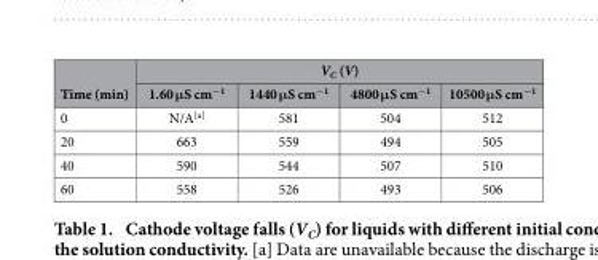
<table><thead><tr><td rowspan="2">Time (min)</td><td colspan="4">V<sub>C</sub> (V)</td></tr><tr><td>1.60 μS cm<sup>−1</sup></td><td>1440 μS cm<sup>−1</sup></td><td>4800 μS cm<sup>−1</sup></td><td>10500 μS cm<sup>−1</sup></td></tr></thead><tbody><tr><td>0</td><td>N/A<sup>[a]</sup></td><td>581</td><td>504</td><td>512</td></tr><tr><td>20</td><td>663</td><td>559</td><td>494</td><td>505</td></tr><tr><td>40</td><td>590</td><td>544</td><td>507</td><td>510</td></tr><tr><td>60</td><td>558</td><td>526</td><td>493</td><td>506</td></tr></tbody></table>